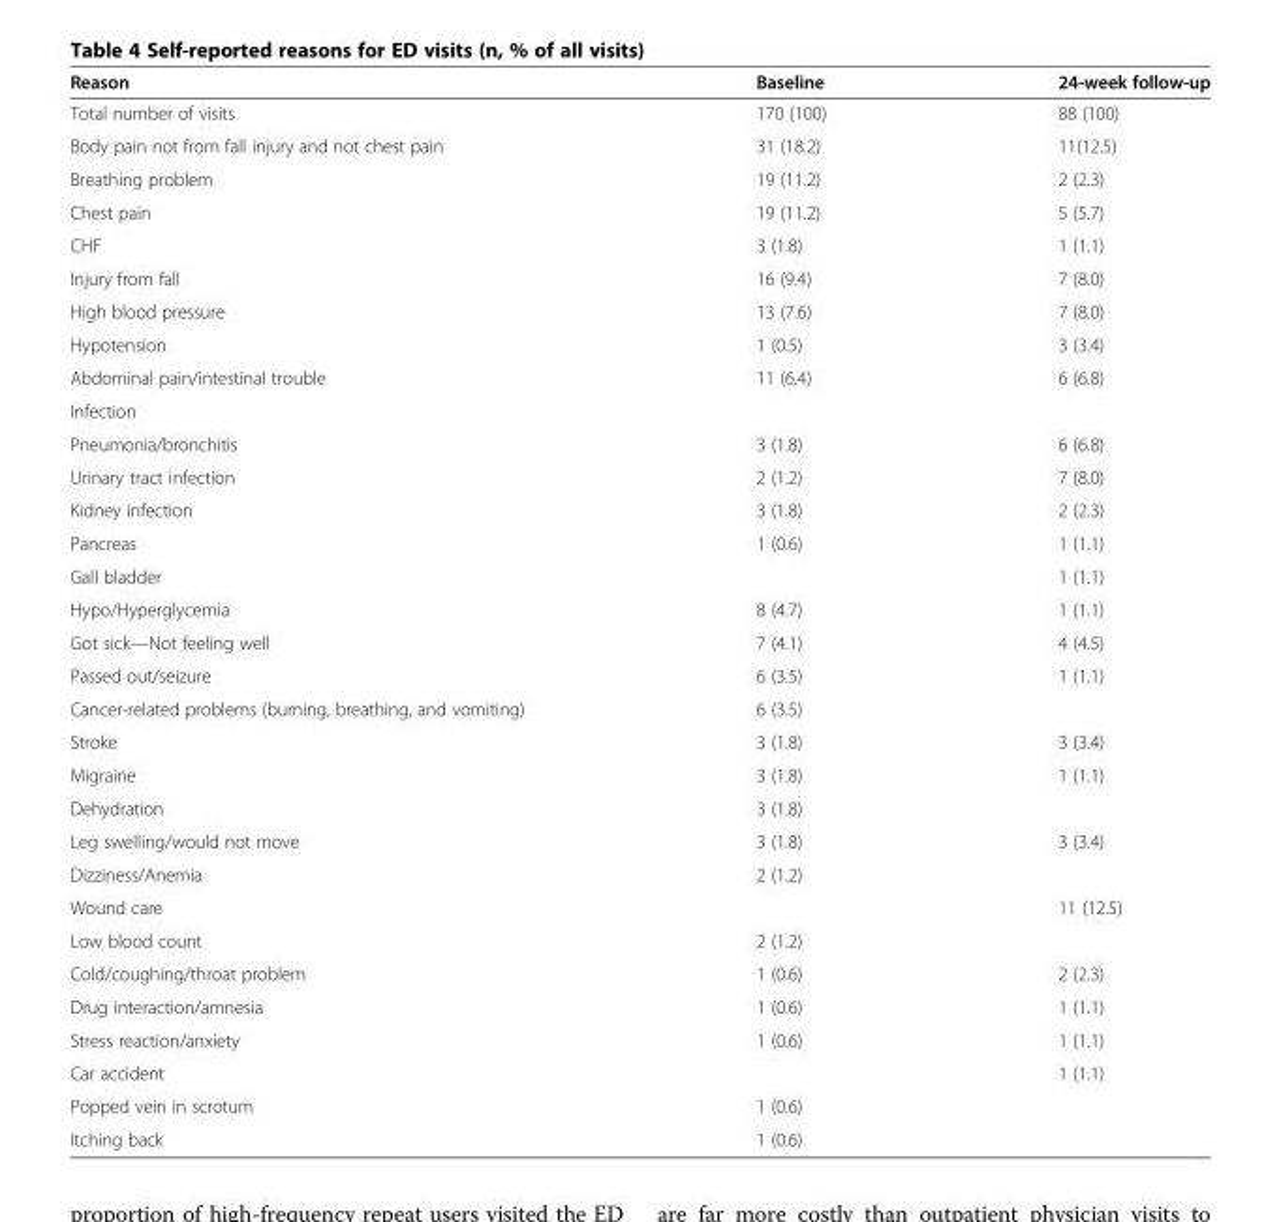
<table><thead><tr><td>Reason</td><td>Baseline</td><td>24-week follow-up</td></tr></thead><tbody><tr><td>Total number of visits</td><td>170 (100)</td><td>88 (100)</td></tr><tr><td>Body pain not from fall injury and not chest pain</td><td>31 (18.2)</td><td>11(12.5)</td></tr><tr><td>Breathing problem</td><td>19 (11.2)</td><td>2 (2.3)</td></tr><tr><td>Chest pain</td><td>19 (11.2)</td><td>5 (5.7)</td></tr><tr><td>CHF</td><td>3 (1.8)</td><td>1 (1.1)</td></tr><tr><td>Injury from fall</td><td>16 (9.4)</td><td>7 (8.0)</td></tr><tr><td>High blood pressure</td><td>13 (7.6)</td><td>7 (8.0)</td></tr><tr><td>Hypotension</td><td>1 (0.5)</td><td>3 (3.4)</td></tr><tr><td>Abdominal pain/intestinal trouble</td><td>11 (6.4)</td><td>6 (6.8)</td></tr><tr><td colspan="3">Infection</td></tr><tr><td>Pneumonia/bronchitis</td><td>3 (1.8)</td><td>6 (6.8)</td></tr><tr><td>Urinary tract infection</td><td>2 (1.2)</td><td>7 (8.0)</td></tr><tr><td>Kidney infection</td><td>3 (1.8)</td><td>2 (2.3)</td></tr><tr><td>Pancreas</td><td>1 (0.6)</td><td>1 (1.1)</td></tr><tr><td>Gall bladder</td><td></td><td>1 (1.1)</td></tr><tr><td>Hypo/Hyperglycemia</td><td>8 (4.7)</td><td>1 (1.1)</td></tr><tr><td>Got sick—Not feeling well</td><td>7 (4.1)</td><td>4 (4.5)</td></tr><tr><td>Passed out/seizure</td><td>6 (3.5)</td><td>1 (1.1)</td></tr><tr><td>Cancer-related problems (burning, breathing, and vomiting)</td><td>6 (3.5)</td><td></td></tr><tr><td>Stroke</td><td>3 (1.8)</td><td>3 (3.4)</td></tr><tr><td>Migraine</td><td>3 (1.8)</td><td>1 (1.1)</td></tr><tr><td>Dehydration</td><td>3 (1.8)</td><td></td></tr><tr><td>Leg swelling/would not move</td><td>3 (1.8)</td><td>3 (3.4)</td></tr><tr><td>Dizziness/Anemia</td><td>2 (1.2)</td><td></td></tr><tr><td>Wound care</td><td></td><td>11 (12.5)</td></tr><tr><td>Low blood count</td><td>2 (1.2)</td><td></td></tr><tr><td>Cold/coughing/throat problem</td><td>1 (0.6)</td><td>2 (2.3)</td></tr><tr><td>Drug interaction/amnesia</td><td>1 (0.6)</td><td>1 (1.1)</td></tr><tr><td>Stress reaction/anxiety</td><td>1 (0.6)</td><td>1 (1.1)</td></tr><tr><td>Car accident</td><td></td><td>1 (1.1)</td></tr><tr><td>Popped vein in scrotum</td><td>1 (0.6)</td><td></td></tr><tr><td>Itching back</td><td>1 (0.6)</td><td></td></tr></tbody></table>